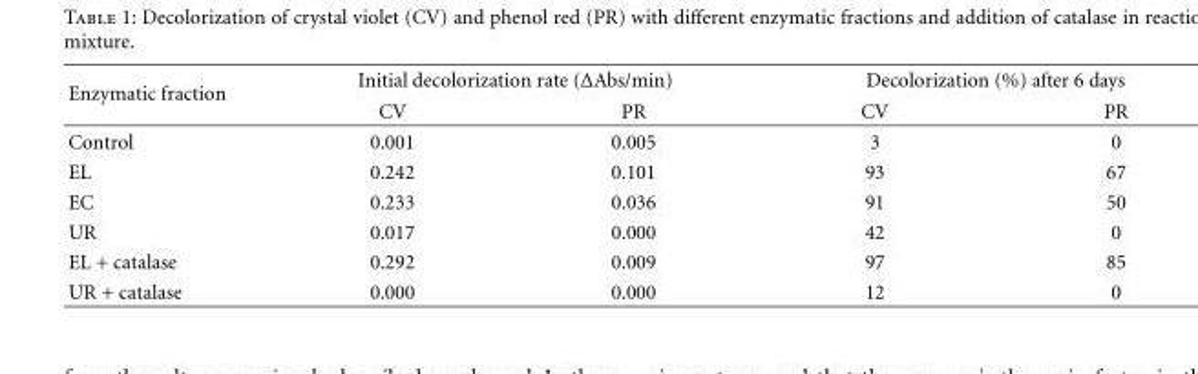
<table><thead><tr><td rowspan="2">Enzymatic fraction</td><td colspan="2">Initial decolorization rate (ΔAbs/min)</td><td colspan="2">Decolorization (%) after 6 days</td></tr><tr><td>CV</td><td>PR</td><td>CV</td><td>PR</td></tr></thead><tbody><tr><td>Control</td><td>0.001</td><td>0.005</td><td>3</td><td>0</td></tr><tr><td>EL</td><td>0.242</td><td>0.101</td><td>93</td><td>67</td></tr><tr><td>EC</td><td>0.233</td><td>0.036</td><td>91</td><td>50</td></tr><tr><td>UR</td><td>0.017</td><td>0.000</td><td>42</td><td>0</td></tr><tr><td>EL + catalase</td><td>0.292</td><td>0.009</td><td>97</td><td>85</td></tr><tr><td>UR + catalase</td><td>0.000</td><td>0.000</td><td>12</td><td>0</td></tr></tbody></table>